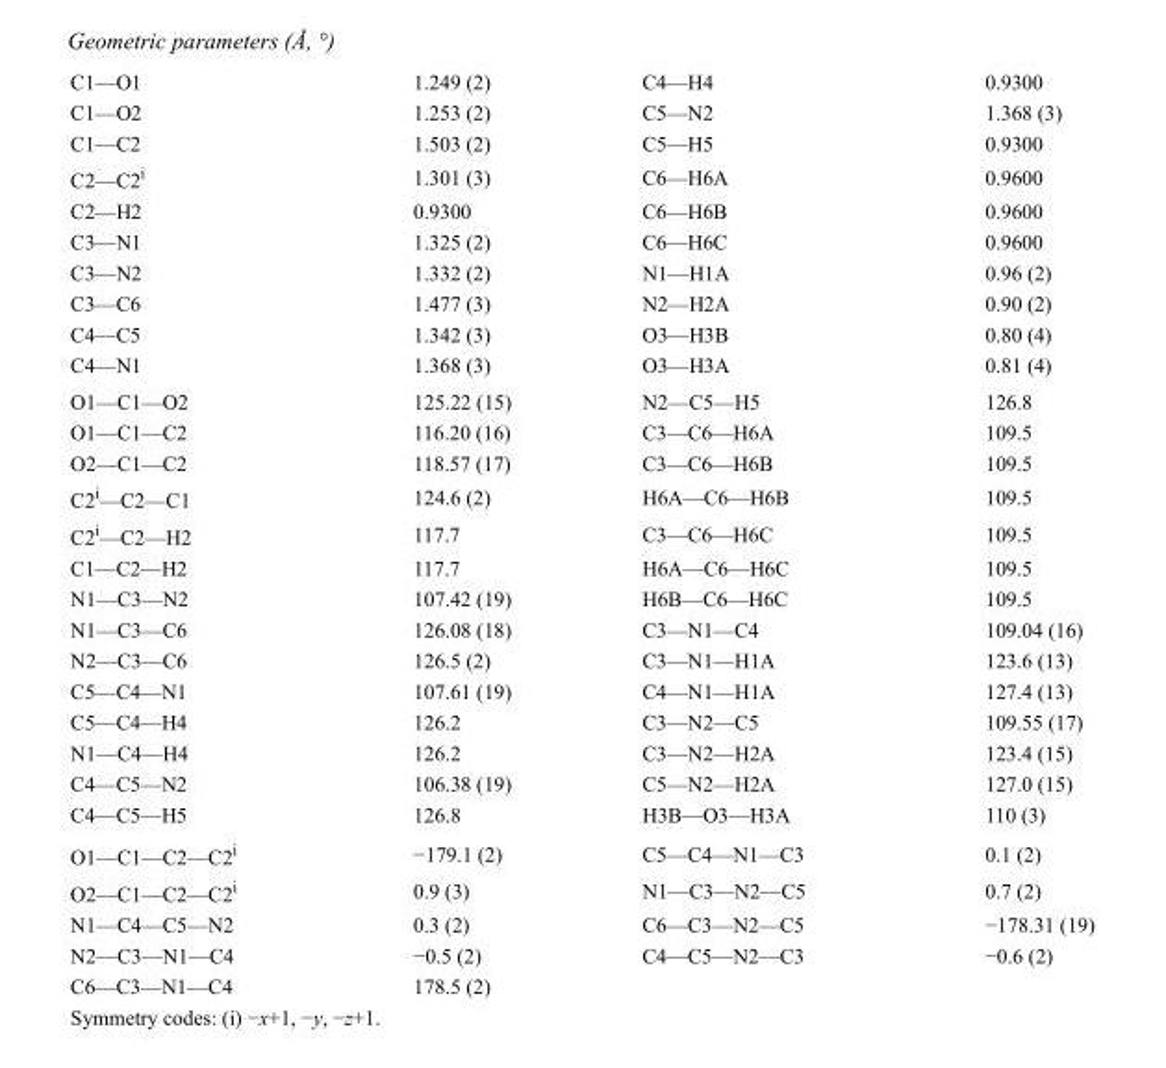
<table><tbody><tr><td>C1—O1</td><td>1.249 (2)</td><td>C4—H4</td><td>0.9300</td></tr><tr><td>C1—O2</td><td>1.253 (2)</td><td>C5—N2</td><td>1.368 (3)</td></tr><tr><td>C1—C2</td><td>1.503 (2)</td><td>C5—H5</td><td>0.9300</td></tr><tr><td>C2—C2<sup>i</sup></td><td>1.301 (3)</td><td>C6—H6A</td><td>0.9600</td></tr><tr><td>C2—H2</td><td>0.9300</td><td>C6—H6B</td><td>0.9600</td></tr><tr><td>C3—N1</td><td>1.325 (2)</td><td>C6—H6C</td><td>0.9600</td></tr><tr><td>C3—N2</td><td>1.332 (2)</td><td>N1—H1A</td><td>0.96 (2)</td></tr><tr><td>C3—C6</td><td>1.477 (3)</td><td>N2—H2A</td><td>0.90 (2)</td></tr><tr><td>C4—C5</td><td>1.342 (3)</td><td>O3—H3B</td><td>0.80 (4)</td></tr><tr><td>C4—N1</td><td>1.368 (3)</td><td>O3—H3A</td><td>0.81 (4)</td></tr><tr><td>O1—C1—O2</td><td>125.22 (15)</td><td>N2—C5—H5</td><td>126.8</td></tr><tr><td>O1—C1—C2</td><td>116.20 (16)</td><td>C3—C6—H6A</td><td>109.5</td></tr><tr><td>O2—C1—C2</td><td>118.57 (17)</td><td>C3—C6—H6B</td><td>109.5</td></tr><tr><td>C2<sup>i</sup>—C2—C1</td><td>124.6 (2)</td><td>H6A—C6—H6B</td><td>109.5</td></tr><tr><td>C2<sup>i</sup>—C2—H2</td><td>117.7</td><td>C3—C6—H6C</td><td>109.5</td></tr><tr><td>C1—C2—H2</td><td>117.7</td><td>H6A—C6—H6C</td><td>109.5</td></tr><tr><td>N1—C3—N2</td><td>107.42 (19)</td><td>H6B—C6—H6C</td><td>109.5</td></tr><tr><td>N1—C3—C6</td><td>126.08 (18)</td><td>C3—N1—C4</td><td>109.04 (16)</td></tr><tr><td>N2—C3—C6</td><td>126.5 (2)</td><td>C3—N1—H1A</td><td>123.6 (13)</td></tr><tr><td>C5—C4—N1</td><td>107.61 (19)</td><td>C4—N1—H1A</td><td>127.4 (13)</td></tr><tr><td>C5—C4—H4</td><td>126.2</td><td>C3—N2—C5</td><td>109.55 (17)</td></tr><tr><td>N1—C4—H4</td><td>126.2</td><td>C3—N2—H2A</td><td>123.4 (15)</td></tr><tr><td>C4—C5—N2</td><td>106.38 (19)</td><td>C5—N2—H2A</td><td>127.0 (15)</td></tr><tr><td>C4—C5—H5</td><td>126.8</td><td>H3B—O3—H3A</td><td>110 (3)</td></tr><tr><td>O1—C1—C2—C2<sup>i</sup></td><td>−179.1 (2)</td><td>C5—C4—N1—C3</td><td>0.1 (2)</td></tr><tr><td>O2—C1—C2—C2<sup>i</sup></td><td>0.9 (3)</td><td>N1—C3—N2—C5</td><td>0.7 (2)</td></tr><tr><td>N1—C4—C5—N2</td><td>0.3 (2)</td><td>C6—C3—N2—C5</td><td>−178.31 (19)</td></tr><tr><td>N2—C3—N1—C4</td><td>−0.5 (2)</td><td>C4—C5—N2—C3</td><td>−0.6 (2)</td></tr><tr><td>C6—C3—N1—C4</td><td>178.5 (2)</td><td></td><td></td></tr></tbody></table>